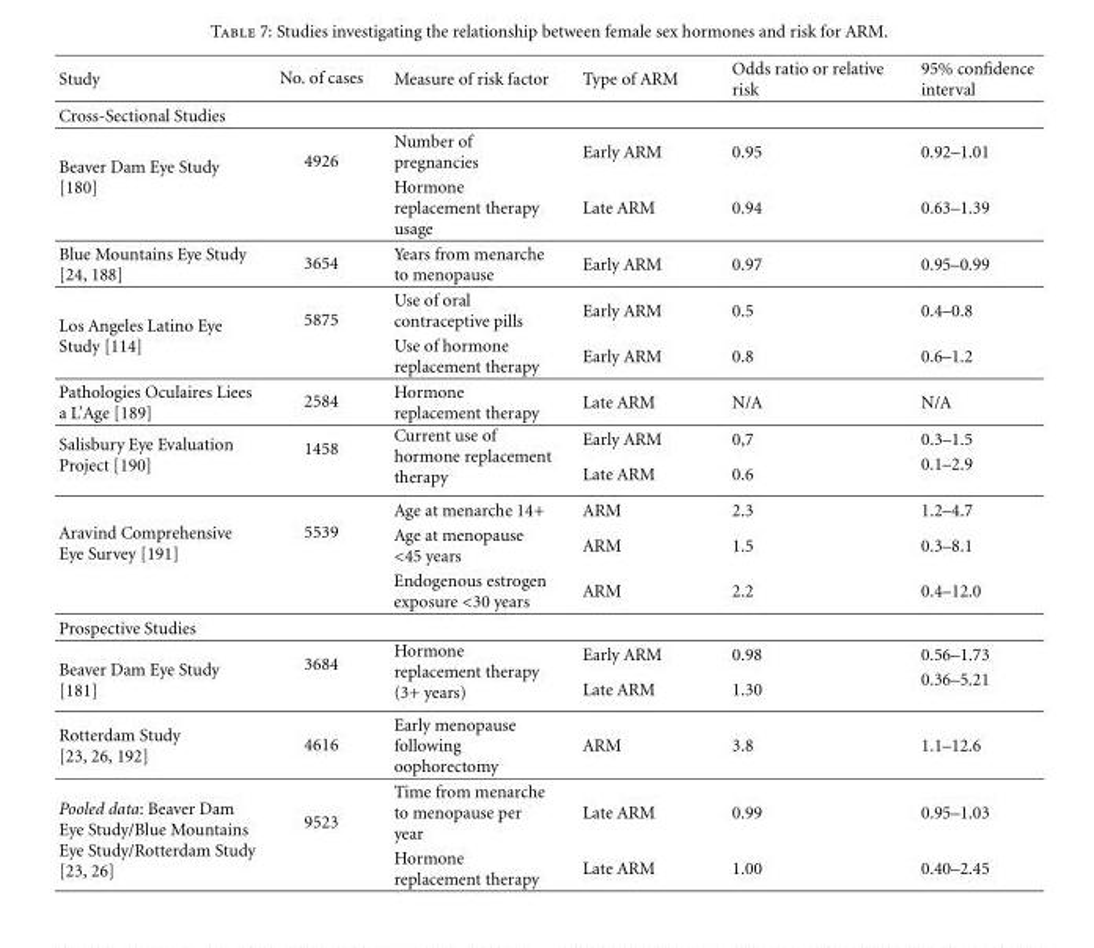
<table><thead><tr><td>Study</td><td>No. of cases</td><td>Measure of risk factor</td><td>Type of ARM</td><td>Odds ratio or relative risk</td><td>95% confidence interval</td></tr></thead><tbody><tr><td colspan="6">Cross-Sectional Studies</td></tr><tr><td rowspan="2">Beaver Dam Eye Study [180]</td><td rowspan="2">4926</td><td>Number of pregnancies</td><td>Early ARM</td><td>0.95</td><td>0.92–1.01</td></tr><tr><td>Hormone replacement therapy usage</td><td>Late ARM</td><td>0.94</td><td>0.63–1.39</td></tr><tr><td>Blue Mountains Eye Study [24, 188]</td><td>3654</td><td>Years from menarche to menopause</td><td>Early ARM</td><td>0.97</td><td>0.95–0.99</td></tr><tr><td rowspan="2">Los Angeles Latino Eye Study [114]</td><td rowspan="2">5875</td><td>Use of oral contraceptive pills</td><td>Early ARM</td><td>0.5</td><td>0.4–0.8</td></tr><tr><td>Use of hormone replacement therapy</td><td>Early ARM</td><td>0.8</td><td>0.6–1.2</td></tr><tr><td>Pathologies Oculaires Liees a L’Age [189]</td><td>2584</td><td>Hormone replacement therapy</td><td>Late ARM</td><td>N/A</td><td>N/A</td></tr><tr><td rowspan="2">Salisbury Eye Evaluation Project [190]</td><td rowspan="2">1458</td><td rowspan="2">Current use of hormone replacement therapy</td><td>Early ARM</td><td>0,7</td><td>0.3–1.5</td></tr><tr><td>Late ARM</td><td>0.6</td><td>0.1–2.9</td></tr><tr><td rowspan="3">Aravind Comprehensive Eye Survey [191]</td><td rowspan="3">5539</td><td>Age at menarche 14+</td><td>ARM</td><td>2.3</td><td>1.2–4.7</td></tr><tr><td>Age at menopause &lt;45 years</td><td>ARM</td><td>1.5</td><td>0.3–8.1</td></tr><tr><td>Endogenous estrogen exposure &lt;30 years</td><td>ARM</td><td>2.2</td><td>0.4–12.0</td></tr><tr><td colspan="6">Prospective Studies</td></tr><tr><td rowspan="2">Beaver Dam Eye Study [181]</td><td rowspan="2">3684</td><td rowspan="2">Hormone replacement therapy (3+ years)</td><td>Early ARM</td><td>0.98</td><td>0.56–1.73</td></tr><tr><td>Late ARM</td><td>1.30</td><td>0.36–5.21</td></tr><tr><td>Rotterdam Study [23, 26, 192]</td><td>4616</td><td>Early menopause following oophorectomy</td><td>ARM</td><td>3.8</td><td>1.1–12.6</td></tr><tr><td rowspan="2">Pooled data: Beaver Dam Eye Study/Blue Mountains Eye Study/Rotterdam Study [23, 26]</td><td rowspan="2">9523</td><td>Time from menarche to menopause per year</td><td>Late ARM</td><td>0.99</td><td>0.95–1.03</td></tr><tr><td>Hormone replacement therapy</td><td>Late ARM</td><td>1.00</td><td>0.40–2.45</td></tr></tbody></table>